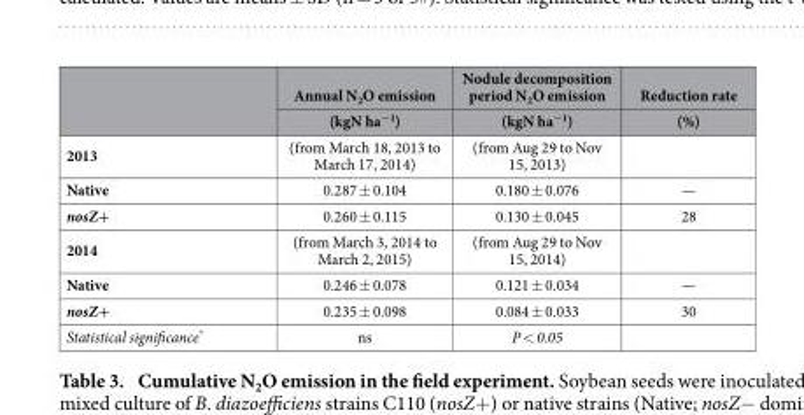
<table><thead><tr><td rowspan="2"></td><td rowspan="2">Annual N<sub>2</sub>O emission (kgN ha<sup>−1</sup>)</td><td rowspan="2">Nodule decomposition period N<sub>2</sub>O emission (kgN ha<sup>−1</sup>)</td><td rowspan="2">Reduction rate (%)</td></tr><tr></tr></thead><tbody><tr><td>2013</td><td>(from March 18, 2013 to March 17, 2014)</td><td>(from Aug 29 to Nov 15, 2013)</td><td></td></tr><tr><td>Native</td><td>0.287 ± 0.104</td><td>0.180 ± 0.076</td><td>—</td></tr><tr><td>nosZ+</td><td>0.260 ± 0.115</td><td>0.130 ± 0.045</td><td>28</td></tr><tr><td>2014</td><td>(from March 3, 2014 to March 2, 2015)</td><td>(from Aug 29 to Nov 15, 2014)</td><td></td></tr><tr><td>Native</td><td>0.246 ± 0.078</td><td>0.121 ± 0.034</td><td>—</td></tr><tr><td>nosZ+</td><td>0.235 ± 0.098</td><td>0.084 ± 0.033</td><td>30</td></tr><tr><td>Statistical significance*</td><td>ns</td><td>P &lt; 0.05</td><td></td></tr></tbody></table>